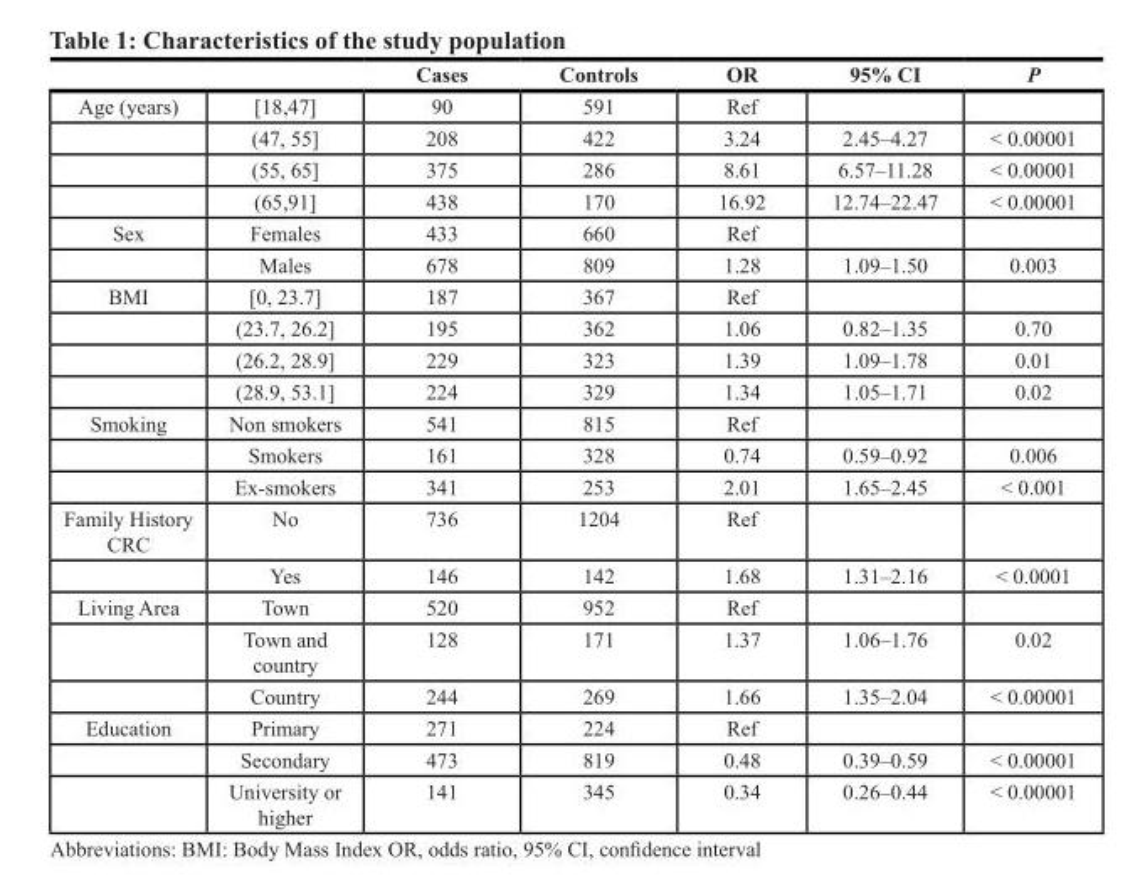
<table><thead><tr><td></td><td></td><td>Cases</td><td>Controls</td><td>OR</td><td>95% CI</td><td>P</td></tr></thead><tbody><tr><td rowspan="4">Age (years)</td><td>[18,47]</td><td>90</td><td>591</td><td>Ref</td><td></td><td></td></tr><tr><td>(47, 55]</td><td>208</td><td>422</td><td>3.24</td><td>2.45–4.27</td><td>&lt; 0.00001</td></tr><tr><td>(55, 65]</td><td>375</td><td>286</td><td>8.61</td><td>6.57–11.28</td><td>&lt; 0.00001</td></tr><tr><td>(65,91]</td><td>438</td><td>170</td><td>16.92</td><td>12.74–22.47</td><td>&lt; 0.00001</td></tr><tr><td rowspan="2">Sex</td><td>Females</td><td>433</td><td>660</td><td>Ref</td><td></td><td></td></tr><tr><td>Males</td><td>678</td><td>809</td><td>1.28</td><td>1.09–1.50</td><td>0.003</td></tr><tr><td rowspan="4">BMI</td><td>[0, 23.7]</td><td>187</td><td>367</td><td>Ref</td><td></td><td></td></tr><tr><td>(23.7, 26.2]</td><td>195</td><td>362</td><td>1.06</td><td>0.82–1.35</td><td>0.70</td></tr><tr><td>(26.2, 28.9]</td><td>229</td><td>323</td><td>1.39</td><td>1.09–1.78</td><td>0.01</td></tr><tr><td>(28.9, 53.1]</td><td>224</td><td>329</td><td>1.34</td><td>1.05–1.71</td><td>0.02</td></tr><tr><td rowspan="3">Smoking</td><td>Non smokers</td><td>541</td><td>815</td><td>Ref</td><td></td><td></td></tr><tr><td>Smokers</td><td>161</td><td>328</td><td>0.74</td><td>0.59–0.92</td><td>0.006</td></tr><tr><td>Ex-smokers</td><td>341</td><td>253</td><td>2.01</td><td>1.65–2.45</td><td>&lt; 0.001</td></tr><tr><td rowspan="2">Family History CRC</td><td>No</td><td>736</td><td>1204</td><td>Ref</td><td></td><td></td></tr><tr><td>Yes</td><td>146</td><td>142</td><td>1.68</td><td>1.31–2.16</td><td>&lt; 0.0001</td></tr><tr><td rowspan="3">Living Area</td><td>Town</td><td>520</td><td>952</td><td>Ref</td><td></td><td></td></tr><tr><td>Town and country</td><td>128</td><td>171</td><td>1.37</td><td>1.06–1.76</td><td>0.02</td></tr><tr><td>Country</td><td>244</td><td>269</td><td>1.66</td><td>1.35–2.04</td><td>&lt; 0.00001</td></tr><tr><td rowspan="3">Education</td><td>Primary</td><td>271</td><td>224</td><td>Ref</td><td></td><td></td></tr><tr><td>Secondary</td><td>473</td><td>819</td><td>0.48</td><td>0.39–0.59</td><td>&lt; 0.00001</td></tr><tr><td>University or higher</td><td>141</td><td>345</td><td>0.34</td><td>0.26–0.44</td><td>&lt; 0.00001</td></tr></tbody></table>